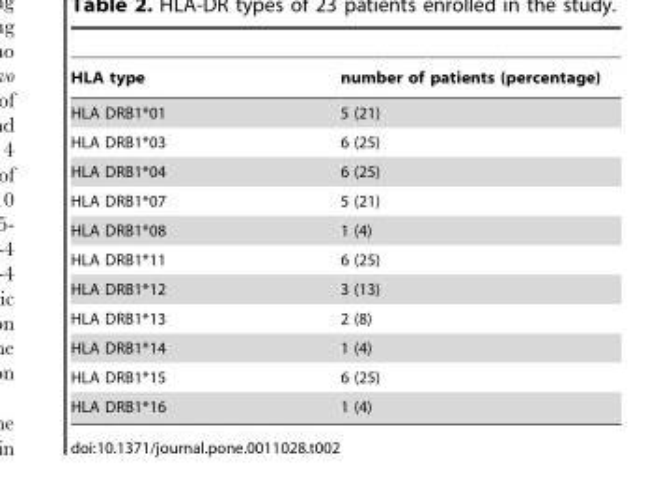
<table><thead><tr><td>HLA type</td><td>number of patients (percentage)</td></tr></thead><tbody><tr><td>HLA DRB1*01</td><td>5 (21)</td></tr><tr><td>HLA DRB1*03</td><td>6 (25)</td></tr><tr><td>HLA DRB1*04</td><td>6 (25)</td></tr><tr><td>HLA DRB1*07</td><td>5 (21)</td></tr><tr><td>HLA DRB1*08</td><td>1 (4)</td></tr><tr><td>HLA DRB1*11</td><td>6 (25)</td></tr><tr><td>HLA DRB1*12</td><td>3 (13)</td></tr><tr><td>HLA DRB1*13</td><td>2 (8)</td></tr><tr><td>HLA DRB1*14</td><td>1 (4)</td></tr><tr><td>HLA DRB1*15</td><td>6 (25)</td></tr><tr><td>HLA DRB1*16</td><td>1 (4)</td></tr></tbody></table>